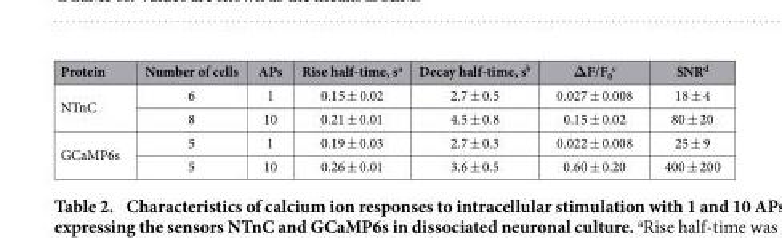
<table><thead><tr><td>Protein</td><td>Number of cells</td><td>APs</td><td>Rise half-time, s<sup>a</sup></td><td>Decay half-time, s<sup>b</sup></td><td>ΔF/F<sub>0</sub> <sup>c</sup></td><td>SNR<sup>d</sup></td></tr></thead><tbody><tr><td rowspan="2">NTnC</td><td>6</td><td>1</td><td>0.15 ± 0.02</td><td>2.7 ± 0.5</td><td>0.027 ± 0.008</td><td>18 ± 4</td></tr><tr><td>8</td><td>10</td><td>0.21 ± 0.01</td><td>4.5 ± 0.8</td><td>0.15 ± 0.02</td><td>80 ± 20</td></tr><tr><td rowspan="2">GCaMP6s</td><td>5</td><td>1</td><td>0.19 ± 0.03</td><td>2.7 ± 0.3</td><td>0.022 ± 0.008</td><td>25 ± 9</td></tr><tr><td>5</td><td>10</td><td>0.26 ± 0.01</td><td>3.6 ± 0.5</td><td>0.60 ± 0.20</td><td>400 ± 200</td></tr></tbody></table>